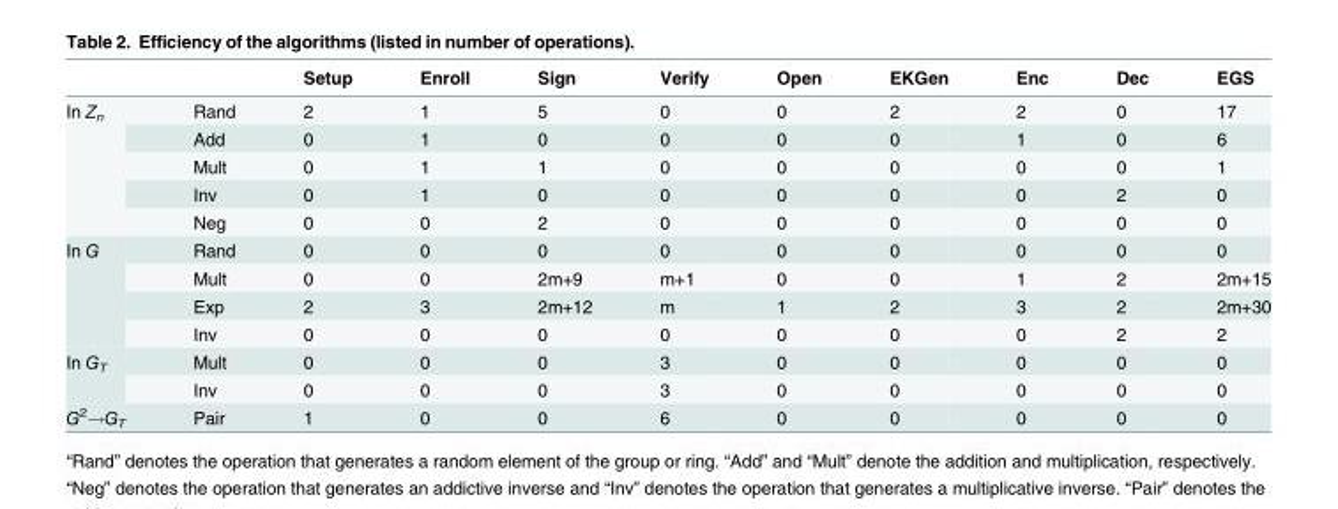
<table><thead><tr><td></td><td></td><td>Setup</td><td>Enroll</td><td>Sign</td><td>Verify</td><td>Open</td><td>EKGen</td><td>Enc</td><td>Dec</td><td>EGS</td></tr></thead><tbody><tr><td rowspan="5">In Z<sub>n</sub></td><td>Rand</td><td>2</td><td>1</td><td>5</td><td>0</td><td>0</td><td>2</td><td>2</td><td>0</td><td>17</td></tr><tr><td>Add</td><td>0</td><td>1</td><td>0</td><td>0</td><td>0</td><td>0</td><td>1</td><td>0</td><td>6</td></tr><tr><td>Mult</td><td>0</td><td>1</td><td>1</td><td>0</td><td>0</td><td>0</td><td>0</td><td>0</td><td>1</td></tr><tr><td>Inv</td><td>0</td><td>1</td><td>0</td><td>0</td><td>0</td><td>0</td><td>0</td><td>2</td><td>0</td></tr><tr><td>Neg</td><td>0</td><td>0</td><td>2</td><td>0</td><td>0</td><td>0</td><td>0</td><td>0</td><td>0</td></tr><tr><td rowspan="4">In G</td><td>Rand</td><td>0</td><td>0</td><td>0</td><td>0</td><td>0</td><td>0</td><td>0</td><td>0</td><td>0</td></tr><tr><td>Mult</td><td>0</td><td>0</td><td>2m+9</td><td>m+1</td><td>0</td><td>0</td><td>1</td><td>2</td><td>2m+15</td></tr><tr><td>Exp</td><td>2</td><td>3</td><td>2m+12</td><td>m</td><td>1</td><td>2</td><td>3</td><td>2</td><td>2m+30</td></tr><tr><td>Inv</td><td>0</td><td>0</td><td>0</td><td>0</td><td>0</td><td>0</td><td>0</td><td>2</td><td>2</td></tr><tr><td rowspan="2">In G<sub>T</sub></td><td>Mult</td><td>0</td><td>0</td><td>0</td><td>3</td><td>0</td><td>0</td><td>0</td><td>0</td><td>0</td></tr><tr><td>Inv</td><td>0</td><td>0</td><td>0</td><td>3</td><td>0</td><td>0</td><td>0</td><td>0</td><td>0</td></tr><tr><td>G<sup>2</sup>→G<sub>T</sub></td><td>Pair</td><td>1</td><td>0</td><td>0</td><td>6</td><td>0</td><td>0</td><td>0</td><td>0</td><td>0</td></tr></tbody></table>